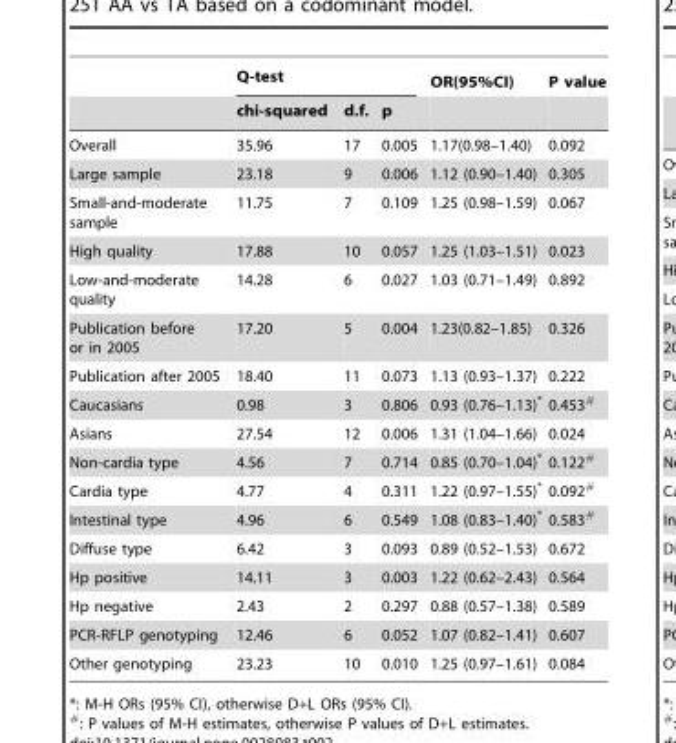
<table><thead><tr><td rowspan="2"></td><td colspan="3">Q-test</td><td rowspan="2">OR(95%CI)</td><td rowspan="2">P value</td></tr><tr><td>chi-squared</td><td>d.f.</td><td>p</td></tr></thead><tbody><tr><td>Overall</td><td>35.96</td><td>17</td><td>0.005</td><td>1.17(0.98–1.40)</td><td>0.092</td></tr><tr><td>Large sample</td><td>23.18</td><td>9</td><td>0.006</td><td>1.12 (0.90–1.40)</td><td>0.305</td></tr><tr><td>Small-and-moderate sample</td><td>11.75</td><td>7</td><td>0.109</td><td>1.25 (0.98–1.59)</td><td>0.067</td></tr><tr><td>High quality</td><td>17.88</td><td>10</td><td>0.057</td><td>1.25 (1.03–1.51)</td><td>0.023</td></tr><tr><td>Low-and-moderate quality</td><td>14.28</td><td>6</td><td>0.027</td><td>1.03 (0.71–1.49)</td><td>0.892</td></tr><tr><td>Publication before or in 2005</td><td>17.20</td><td>5</td><td>0.004</td><td>1.23(0.82–1.85)</td><td>0.326</td></tr><tr><td>Publication after 2005</td><td>18.40</td><td>11</td><td>0.073</td><td>1.13 (0.93–1.37)</td><td>0.222</td></tr><tr><td>Caucasians</td><td>0.98</td><td>3</td><td>0.806</td><td>0.93 (0.76–1.13)*</td><td>0.453#</td></tr><tr><td>Asians</td><td>27.54</td><td>12</td><td>0.006</td><td>1.31 (1.04–1.66)</td><td>0.024</td></tr><tr><td>Non-cardia type</td><td>4.56</td><td>7</td><td>0.714</td><td>0.85 (0.70–1.04)*</td><td>0.122#</td></tr><tr><td>Cardia type</td><td>4.77</td><td>4</td><td>0.311</td><td>1.22 (0.97–1.55)*</td><td>0.092#</td></tr><tr><td>Intestinal type</td><td>4.96</td><td>6</td><td>0.549</td><td>1.08 (0.83–1.40)*</td><td>0.583#</td></tr><tr><td>Diffuse type</td><td>6.42</td><td>3</td><td>0.093</td><td>0.89 (0.52–1.53)</td><td>0.672</td></tr><tr><td>Hp positive</td><td>14.11</td><td>3</td><td>0.003</td><td>1.22 (0.62–2.43)</td><td>0.564</td></tr><tr><td>Hp negative</td><td>2.43</td><td>2</td><td>0.297</td><td>0.88 (0.57–1.38)</td><td>0.589</td></tr><tr><td>PCR-RFLP genotyping</td><td>12.46</td><td>6</td><td>0.052</td><td>1.07 (0.82–1.41)</td><td>0.607</td></tr><tr><td>Other genotyping</td><td>23.23</td><td>10</td><td>0.010</td><td>1.25 (0.97–1.61)</td><td>0.084</td></tr></tbody></table>